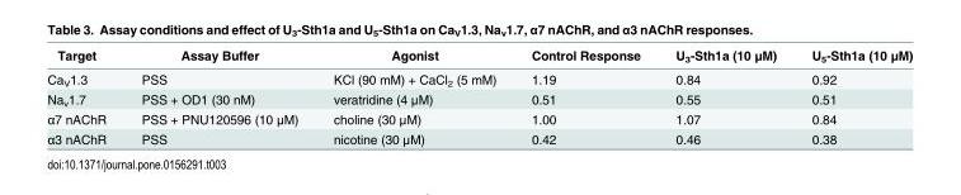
<table><thead><tr><td>Target</td><td>Assay Buffer</td><td>Agonist</td><td>Control Response</td><td>U<sub>3</sub>-Sth1a (10 μM)</td><td>U<sub>5</sub>-Sth1a (10 μM)</td></tr></thead><tbody><tr><td>Ca<sub>V</sub>1.3</td><td>PSS</td><td>KCl (90 mM) + CaCl<sub>2</sub> (5 mM)</td><td>1.19</td><td>0.84</td><td>0.92</td></tr><tr><td>Na<sub>v</sub>1.7</td><td>PSS + OD1 (30 nM)</td><td>veratridine (4 μM)</td><td>0.51</td><td>0.55</td><td>0.51</td></tr><tr><td>α7 nAChR</td><td>PSS + PNU120596 (10 μM)</td><td>choline (30 μM)</td><td>1.00</td><td>1.07</td><td>0.84</td></tr><tr><td>α3 nAChR</td><td>PSS</td><td>nicotine (30 μM)</td><td>0.42</td><td>0.46</td><td>0.38</td></tr></tbody></table>